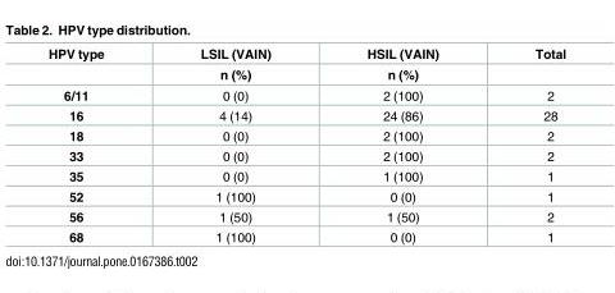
<table><thead><tr><td rowspan="2">HPV type</td><td rowspan="2">LSIL (VAIN) n (%)</td><td rowspan="2">HSIL (VAIN) n (%)</td><td rowspan="2">Total</td></tr><tr></tr></thead><tbody><tr><td>6/11</td><td>0 (0)</td><td>2 (100)</td><td>2</td></tr><tr><td>16</td><td>4 (14)</td><td>24 (86)</td><td>28</td></tr><tr><td>18</td><td>0 (0)</td><td>2 (100)</td><td>2</td></tr><tr><td>33</td><td>0 (0)</td><td>2 (100)</td><td>2</td></tr><tr><td>35</td><td>0 (0)</td><td>1 (100)</td><td>1</td></tr><tr><td>52</td><td>1 (100)</td><td>0 (0)</td><td>1</td></tr><tr><td>56</td><td>1 (50)</td><td>1 (50)</td><td>2</td></tr><tr><td>68</td><td>1 (100)</td><td>0 (0)</td><td>1</td></tr></tbody></table>